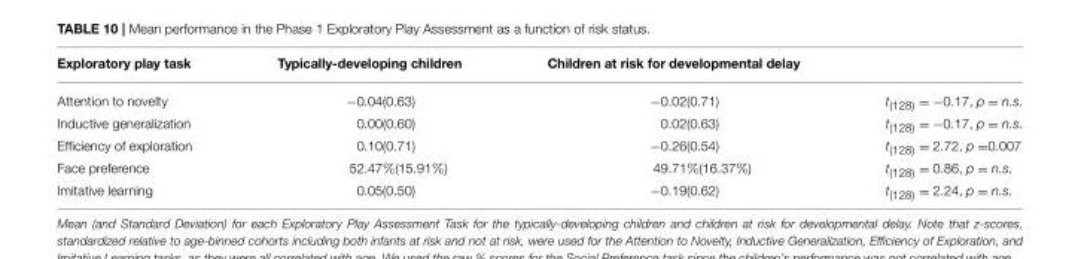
<table><thead><tr><td>Exploratory play task</td><td>Typically-developing children</td><td>Children at risk for developmental delay</td><td></td></tr></thead><tbody><tr><td>Attention to novelty</td><td>−0.04(0.63)</td><td>−0.02(0.71)</td><td>t<sub>(128)</sub> = −0.17, p = n.s.</td></tr><tr><td>Inductive generalization</td><td>0.00(0.60)</td><td>0.02(0.63)</td><td>t<sub>(128)</sub> = −0.17, p = n.s.</td></tr><tr><td>Efficiency of exploration</td><td>0.10(0.71)</td><td>−0.26(0.54)</td><td>t<sub>(128)</sub> = 2.72, p =0.007</td></tr><tr><td>Face preference</td><td>52.47%(15.91%)</td><td>49.71%(16.37%)</td><td>t<sub>(128)</sub> = 0.86, p = n.s.</td></tr><tr><td>Imitative learning</td><td>0.05(0.50)</td><td>−0.19(0.62)</td><td>t<sub>(128)</sub> = 2.24, p = n.s.</td></tr></tbody></table>